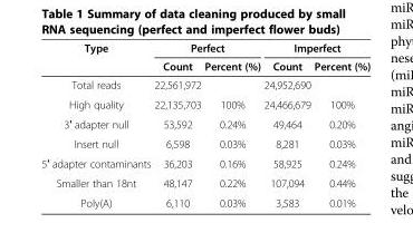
<table><thead><tr><td rowspan="2">Type</td><td colspan="2">Perfect</td><td colspan="2">Imperfect</td></tr><tr><td>Count</td><td>Percent (%)</td><td>Count</td><td>Percent (%)</td></tr></thead><tbody><tr><td>Total reads</td><td>22,561,972</td><td></td><td>24,952,690</td><td></td></tr><tr><td>High quality</td><td>22,135,703</td><td>100%</td><td>24,466,679</td><td>100%</td></tr><tr><td>3′ adapter null</td><td>53,592</td><td>0.24%</td><td>49,464</td><td>0.20%</td></tr><tr><td>Insert null</td><td>6,598</td><td>0.03%</td><td>8,281</td><td>0.03%</td></tr><tr><td>5′ adapter contaminants</td><td>36,203</td><td>0.16%</td><td>58,925</td><td>0.24%</td></tr><tr><td>Smaller than 18nt</td><td>48,147</td><td>0.22%</td><td>107,094</td><td>0.44%</td></tr><tr><td>Poly(A)</td><td>6,110</td><td>0.03%</td><td>3,583</td><td>0.01%</td></tr></tbody></table>